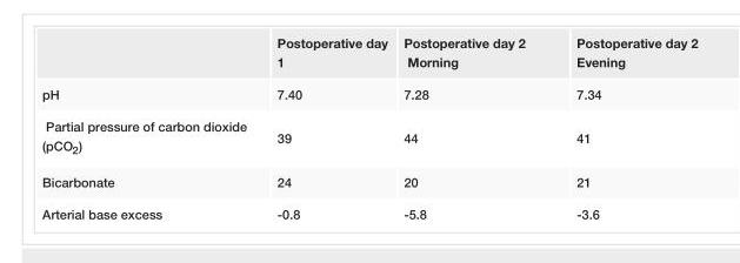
<table><thead><tr><td></td><td>Postoperative day 1</td><td>Postoperative day 2 Morning</td><td>Postoperative day 2 Evening</td></tr></thead><tbody><tr><td>pH</td><td>7.40</td><td>7.28</td><td>7.34</td></tr><tr><td>Partial pressure of carbon dioxide (pCO<sub>2</sub>)</td><td>39</td><td>44</td><td>41</td></tr><tr><td>Bicarbonate</td><td>24</td><td>20</td><td>21</td></tr><tr><td>Arterial base excess</td><td>-0.8</td><td>-5.8</td><td>-3.6</td></tr></tbody></table>